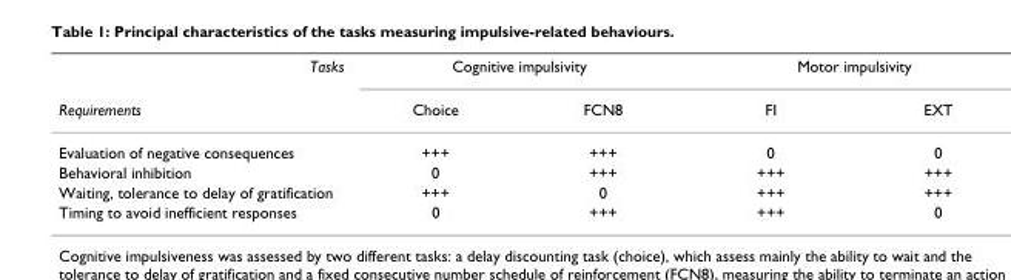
<table><thead><tr><td rowspan="2">Tasks Requirements</td><td colspan="2">Cognitive impulsivity</td><td colspan="2">Motor impulsivity</td></tr><tr><td>Choice</td><td>FCN8</td><td>FI</td><td>EXT</td></tr></thead><tbody><tr><td>Evaluation of negative consequences</td><td>+++</td><td>+++</td><td>0</td><td>0</td></tr><tr><td>Behavioral inhibition</td><td>0</td><td>+++</td><td>+++</td><td>+++</td></tr><tr><td>Waiting, tolerance to delay of gratification</td><td>+++</td><td>0</td><td>+++</td><td>+++</td></tr><tr><td>Timing to avoid inefficient responses</td><td>0</td><td>+++</td><td>+++</td><td>0</td></tr></tbody></table>